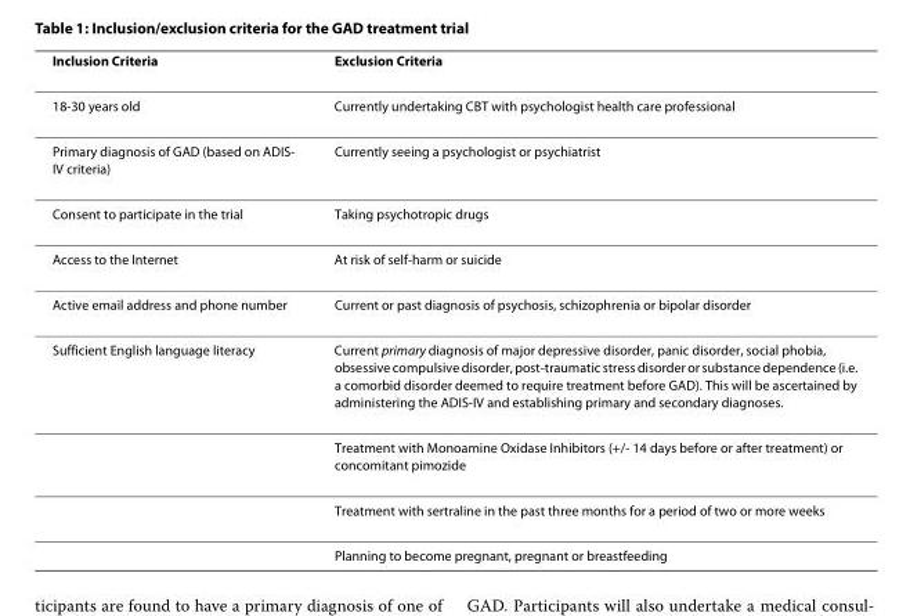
<table><thead><tr><td>Inclusion Criteria</td><td>Exclusion Criteria</td></tr></thead><tbody><tr><td>18-30 years old</td><td>Currently undertaking CBT with psychologist health care professional</td></tr><tr><td>Primary diagnosis of GAD (based on ADIS- IV criteria)</td><td>Currently seeing a psychologist or psychiatrist</td></tr><tr><td>Consent to participate in the trial</td><td>Taking psychotropic drugs</td></tr><tr><td>Access to the Internet</td><td>At risk of self-harm or suicide</td></tr><tr><td>Active email address and phone number</td><td>Current or past diagnosis of psychosis, schizophrenia or bipolar disorder</td></tr><tr><td rowspan="4">Sufficient English language literacy</td><td>Current primary diagnosis of major depressive disorder, panic disorder, social phobia, obsessive compulsive disorder, post-traumatic stress disorder or substance dependence (i.e. a comorbid disorder deemed to require treatment before GAD). This will be ascertained by administering the ADIS-IV and establishing primary and secondary diagnoses.</td></tr><tr><td>Treatment with Monoamine Oxidase Inhibitors (+/- 14 days before or after treatment) or concomitant pimozide</td></tr><tr><td>Treatment with sertraline in the past three months for a period of two or more weeks</td></tr><tr><td>Planning to become pregnant, pregnant or breastfeeding</td></tr></tbody></table>